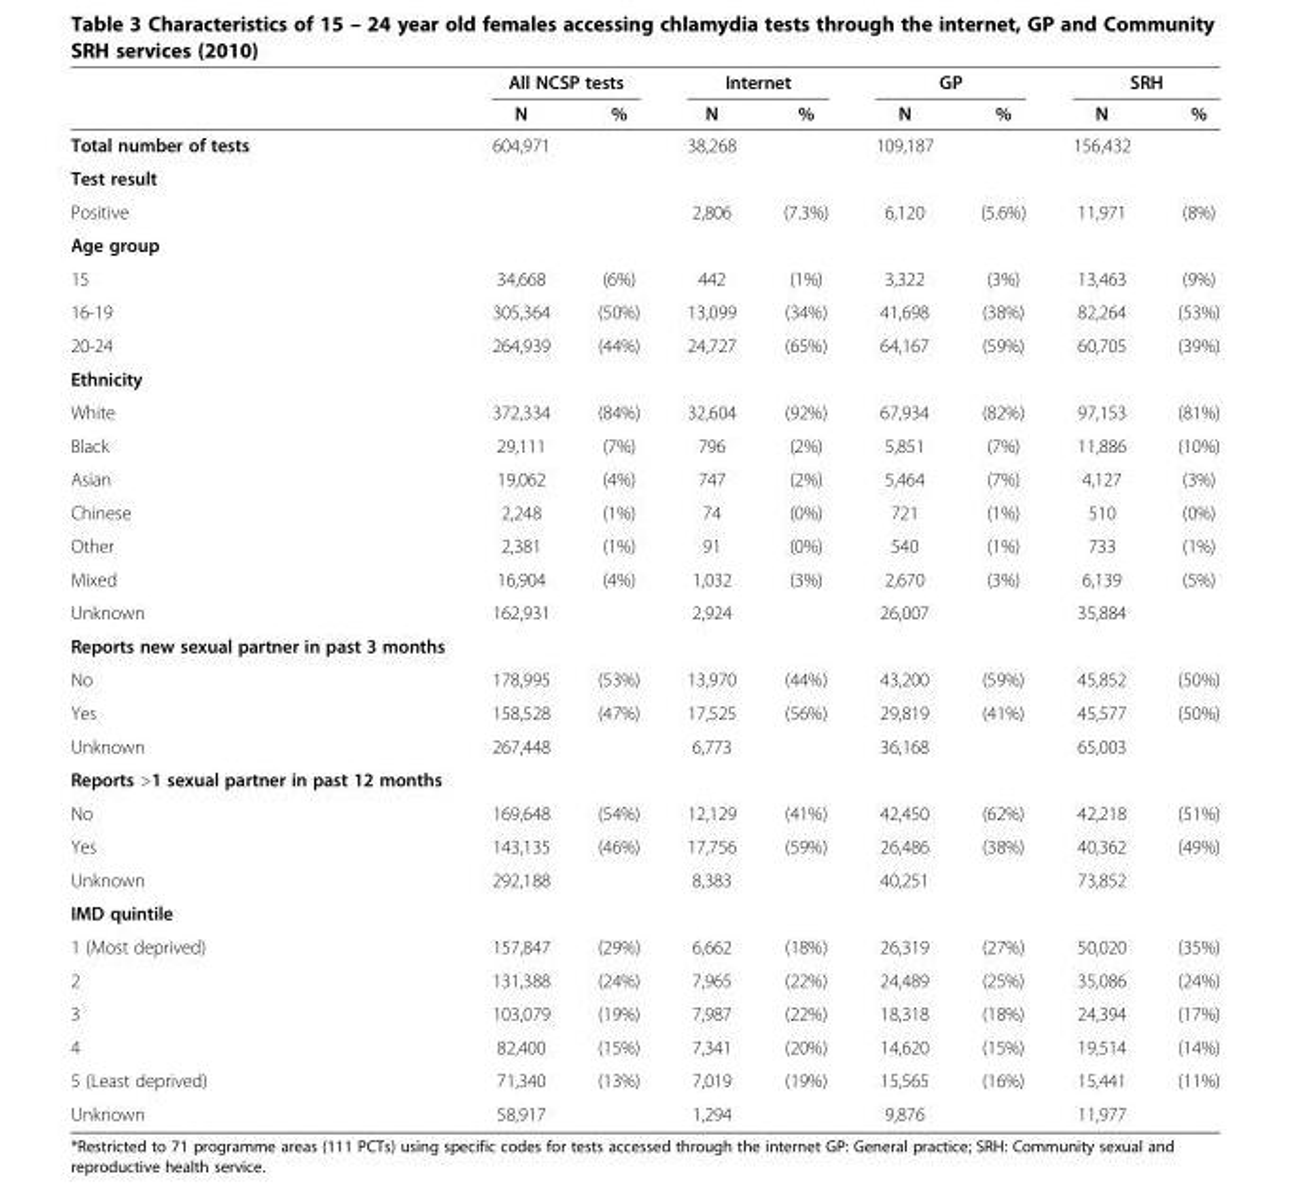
<table><thead><tr><td rowspan="2"></td><td colspan="2">All NCSP tests</td><td colspan="2">Internet</td><td colspan="2">GP</td><td colspan="2">SRH</td></tr><tr><td>N</td><td>%</td><td>N</td><td>%</td><td>N</td><td>%</td><td>N</td><td>%</td></tr></thead><tbody><tr><td>Total number of tests</td><td>604,971</td><td></td><td>38,268</td><td></td><td>109,187</td><td></td><td>156,432</td><td></td></tr><tr><td colspan="9">Test result</td></tr><tr><td>Positive</td><td></td><td></td><td>2,806</td><td>(7.3%)</td><td>6,120</td><td>(5.6%)</td><td>11,971</td><td>(8%)</td></tr><tr><td colspan="9">Age group</td></tr><tr><td>15</td><td>34,668</td><td>(6%)</td><td>442</td><td>(1%)</td><td>3,322</td><td>(3%)</td><td>13,463</td><td>(9%)</td></tr><tr><td>16-19</td><td>305,364</td><td>(50%)</td><td>13,099</td><td>(34%)</td><td>41,698</td><td>(38%)</td><td>82,264</td><td>(53%)</td></tr><tr><td>20-24</td><td>264,939</td><td>(44%)</td><td>24,727</td><td>(65%)</td><td>64,167</td><td>(59%)</td><td>60,705</td><td>(39%)</td></tr><tr><td colspan="9">Ethnicity</td></tr><tr><td>White</td><td>372,334</td><td>(84%)</td><td>32,604</td><td>(92%)</td><td>67,934</td><td>(82%)</td><td>97,153</td><td>(81%)</td></tr><tr><td>Black</td><td>29,111</td><td>(7%)</td><td>796</td><td>(2%)</td><td>5,851</td><td>(7%)</td><td>11,886</td><td>(10%)</td></tr><tr><td>Asian</td><td>19,062</td><td>(4%)</td><td>747</td><td>(2%)</td><td>5,464</td><td>(7%)</td><td>4,127</td><td>(3%)</td></tr><tr><td>Chinese</td><td>2,248</td><td>(1%)</td><td>74</td><td>(0%)</td><td>721</td><td>(1%)</td><td>510</td><td>(0%)</td></tr><tr><td>Other</td><td>2,381</td><td>(1%)</td><td>91</td><td>(0%)</td><td>540</td><td>(1%)</td><td>733</td><td>(1%)</td></tr><tr><td>Mixed</td><td>16,904</td><td>(4%)</td><td>1,032</td><td>(3%)</td><td>2,670</td><td>(3%)</td><td>6,139</td><td>(5%)</td></tr><tr><td>Unknown</td><td>162,931</td><td></td><td>2,924</td><td></td><td>26,007</td><td></td><td>35,884</td><td></td></tr><tr><td colspan="9">Reports new sexual partner in past 3 months</td></tr><tr><td>No</td><td>178,995</td><td>(53%)</td><td>13,970</td><td>(44%)</td><td>43,200</td><td>(59%)</td><td>45,852</td><td>(50%)</td></tr><tr><td>Yes</td><td>158,528</td><td>(47%)</td><td>17,525</td><td>(56%)</td><td>29,819</td><td>(41%)</td><td>45,577</td><td>(50%)</td></tr><tr><td>Unknown</td><td>267,448</td><td></td><td>6,773</td><td></td><td>36,168</td><td></td><td>65,003</td><td></td></tr><tr><td colspan="9">Reports &gt;1 sexual partner in past 12 months</td></tr><tr><td>No</td><td>169,648</td><td>(54%)</td><td>12,129</td><td>(41%)</td><td>42,450</td><td>(62%)</td><td>42,218</td><td>(51%)</td></tr><tr><td>Yes</td><td>143,135</td><td>(46%)</td><td>17,756</td><td>(59%)</td><td>26,486</td><td>(38%)</td><td>40,362</td><td>(49%)</td></tr><tr><td>Unknown</td><td>292,188</td><td></td><td>8,383</td><td></td><td>40,251</td><td></td><td>73,852</td><td></td></tr><tr><td colspan="9">IMD quintile</td></tr><tr><td>1 (Most deprived)</td><td>157,847</td><td>(29%)</td><td>6,662</td><td>(18%)</td><td>26,319</td><td>(27%)</td><td>50,020</td><td>(35%)</td></tr><tr><td>2</td><td>131,388</td><td>(24%)</td><td>7,965</td><td>(22%)</td><td>24,489</td><td>(25%)</td><td>35,086</td><td>(24%)</td></tr><tr><td>3</td><td>103,079</td><td>(19%)</td><td>7,987</td><td>(22%)</td><td>18,318</td><td>(18%)</td><td>24,394</td><td>(17%)</td></tr><tr><td>4</td><td>82,400</td><td>(15%)</td><td>7,341</td><td>(20%)</td><td>14,620</td><td>(15%)</td><td>19,514</td><td>(14%)</td></tr><tr><td>5 (Least deprived)</td><td>71,340</td><td>(13%)</td><td>7,019</td><td>(19%)</td><td>15,565</td><td>(16%)</td><td>15,441</td><td>(11%)</td></tr><tr><td>Unknown</td><td>58,917</td><td></td><td>1,294</td><td></td><td>9,876</td><td></td><td>11,977</td><td></td></tr></tbody></table>